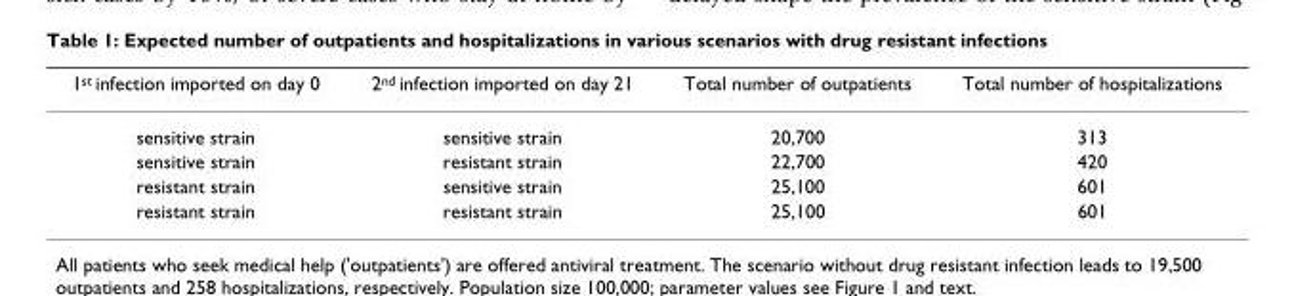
<table><thead><tr><td>1<sup>st</sup> infection imported on day 0</td><td>2<sup>nd</sup> infection imported on day 21</td><td>Total number of outpatients</td><td>Total number of hospitalizations</td></tr></thead><tbody><tr><td>sensitive strain</td><td>sensitive strain</td><td>20,700</td><td>313</td></tr><tr><td>sensitive strain</td><td>resistant strain</td><td>22,700</td><td>420</td></tr><tr><td>resistant strain</td><td>sensitive strain</td><td>25,100</td><td>601</td></tr><tr><td>resistant strain</td><td>resistant strain</td><td>25,100</td><td>601</td></tr></tbody></table>